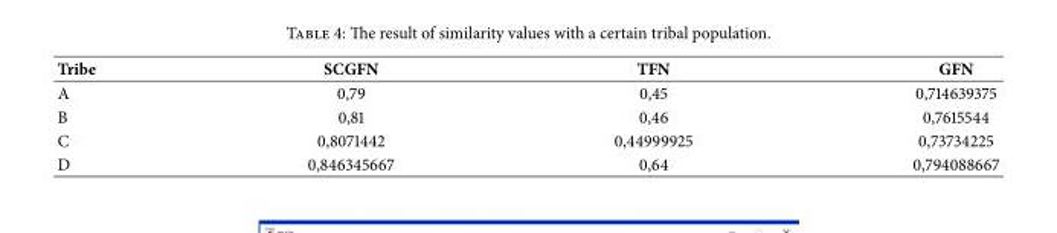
<table><thead><tr><td>Tribe</td><td>SCGFN</td><td>TFN</td><td>GFN</td></tr></thead><tbody><tr><td>A</td><td>0,79</td><td>0,45</td><td>0,714639375</td></tr><tr><td>B</td><td>0,81</td><td>0,46</td><td>0,7615544</td></tr><tr><td>C</td><td>0,8071442</td><td>0,44999925</td><td>0,73734225</td></tr><tr><td>D</td><td>0,846345667</td><td>0,64</td><td>0,794088667</td></tr></tbody></table>